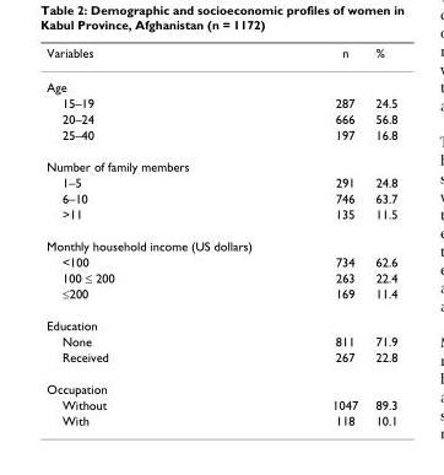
<table><thead><tr><td>Variables</td><td>n</td><td>%</td></tr></thead><tbody><tr><td colspan="3">Age</td></tr><tr><td>15–19</td><td>287</td><td>24.5</td></tr><tr><td>20–24</td><td>666</td><td>56.8</td></tr><tr><td>25–40</td><td>197</td><td>16.8</td></tr><tr><td colspan="3">Number of family members</td></tr><tr><td>1–5</td><td>291</td><td>24.8</td></tr><tr><td>6–10</td><td>746</td><td>63.7</td></tr><tr><td>&gt;11</td><td>135</td><td>11.5</td></tr><tr><td colspan="3">Monthly household income (US dollars)</td></tr><tr><td>&lt;100</td><td>734</td><td>62.6</td></tr><tr><td>100 ≤ 200</td><td>263</td><td>22.4</td></tr><tr><td>≤200</td><td>169</td><td>11.4</td></tr><tr><td colspan="3">Education</td></tr><tr><td>None</td><td>811</td><td>71.9</td></tr><tr><td>Received</td><td>267</td><td>22.8</td></tr><tr><td colspan="3">Occupation</td></tr><tr><td>Without</td><td>1047</td><td>89.3</td></tr><tr><td>With</td><td>118</td><td>10.1</td></tr></tbody></table>